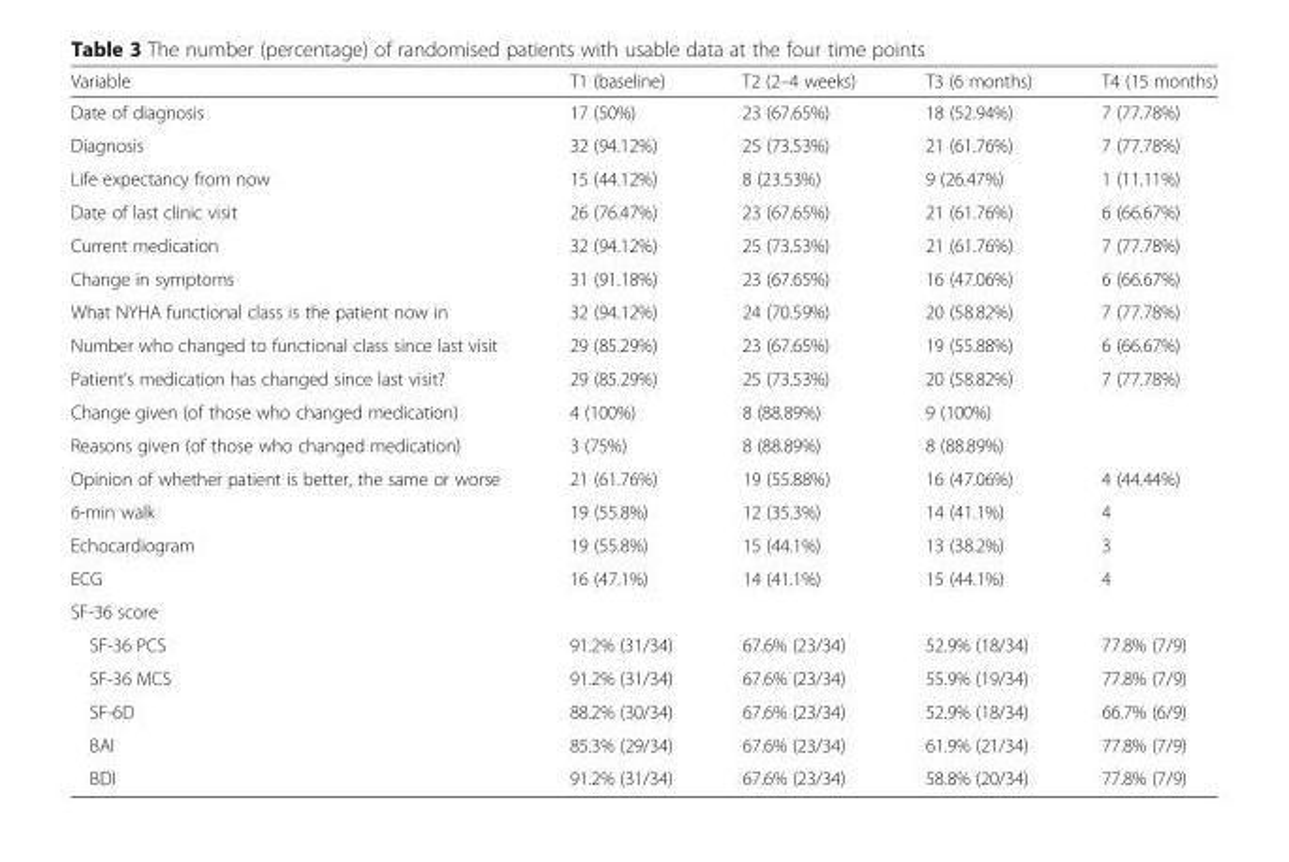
<table><thead><tr><td>Variable</td><td>T1 (baseline)</td><td>T2 (2–4 weeks)</td><td>T3 (6 months)</td><td>T4 (15 months)</td></tr></thead><tbody><tr><td>Date of diagnosis</td><td>17 (50%)</td><td>23 (67.65%)</td><td>18 (52.94%)</td><td>7 (77.78%)</td></tr><tr><td>Diagnosis</td><td>32 (94.12%)</td><td>25 (73.53%)</td><td>21 (61.76%)</td><td>7 (77.78%)</td></tr><tr><td>Life expectancy from now</td><td>15 (44.12%)</td><td>8 (23.53%)</td><td>9 (26.47%)</td><td>1 (11.11%)</td></tr><tr><td>Date of last clinic visit</td><td>26 (76.47%)</td><td>23 (67.65%)</td><td>21 (61.76%)</td><td>6 (66.67%)</td></tr><tr><td>Current medication</td><td>32 (94.12%)</td><td>25 (73.53%)</td><td>21 (61.76%)</td><td>7 (77.78%)</td></tr><tr><td>Change in symptoms</td><td>31 (91.18%)</td><td>23 (67.65%)</td><td>16 (47.06%)</td><td>6 (66.67%)</td></tr><tr><td>What NYHA functional class is the patient now in</td><td>32 (94.12%)</td><td>24 (70.59%)</td><td>20 (58.82%)</td><td>7 (77.78%)</td></tr><tr><td>Number who changed to functional class since last visit</td><td>29 (85.29%)</td><td>23 (67.65%)</td><td>19 (55.88%)</td><td>6 (66.67%)</td></tr><tr><td>Patient’s medication has changed since last visit?</td><td>29 (85.29%)</td><td>25 (73.53%)</td><td>20 (58.82%)</td><td>7 (77.78%)</td></tr><tr><td>Change given (of those who changed medication)</td><td>4 (100%)</td><td>8 (88.89%)</td><td>9 (100%)</td><td></td></tr><tr><td>Reasons given (of those who changed medication)</td><td>3 (75%)</td><td>8 (88.89%)</td><td>8 (88.89%)</td><td></td></tr><tr><td>Opinion of whether patient is better, the same or worse</td><td>21 (61.76%)</td><td>19 (55.88%)</td><td>16 (47.06%)</td><td>4 (44.44%)</td></tr><tr><td>6-min walk</td><td>19 (55.8%)</td><td>12 (35.3%)</td><td>14 (41.1%)</td><td>4</td></tr><tr><td>Echocardiogram</td><td>19 (55.8%)</td><td>15 (44.1%)</td><td>13 (38.2%)</td><td>3</td></tr><tr><td>ECG</td><td>16 (47.1%)</td><td>14 (41.1%)</td><td>15 (44.1%)</td><td>4</td></tr><tr><td colspan="5">SF-36 score</td></tr><tr><td>SF-36 PCS</td><td>91.2% (31/34)</td><td>67.6% (23/34)</td><td>52.9% (18/34)</td><td>77.8% (7/9)</td></tr><tr><td>SF-36 MCS</td><td>91.2% (31/34)</td><td>67.6% (23/34)</td><td>55.9% (19/34)</td><td>77.8% (7/9)</td></tr><tr><td>SF-6D</td><td>88.2% (30/34)</td><td>67.6% (23/34)</td><td>52.9% (18/34)</td><td>66.7% (6/9)</td></tr><tr><td>BAI</td><td>85.3% (29/34)</td><td>67.6% (23/34)</td><td>61.9% (21/34)</td><td>77.8% (7/9)</td></tr><tr><td>BDI</td><td>91.2% (31/34)</td><td>67.6% (23/34)</td><td>58.8% (20/34)</td><td>77.8% (7/9)</td></tr></tbody></table>